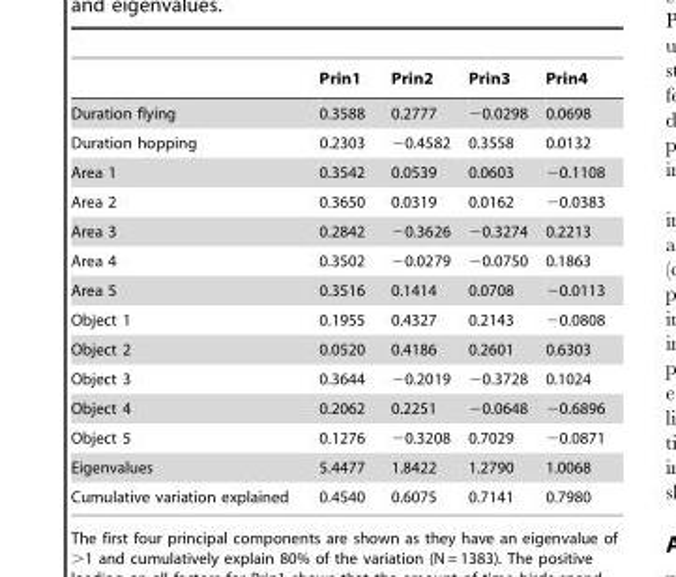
<table><thead><tr><td></td><td>Prin1</td><td>Prin2</td><td>Prin3</td><td>Prin4</td></tr></thead><tbody><tr><td>Duration flying</td><td>0.3588</td><td>0.2777</td><td>−0.0298</td><td>0.0698</td></tr><tr><td>Duration hopping</td><td>0.2303</td><td>−0.4582</td><td>0.3558</td><td>0.0132</td></tr><tr><td>Area 1</td><td>0.3542</td><td>0.0539</td><td>0.0603</td><td>−0.1108</td></tr><tr><td>Area 2</td><td>0.3650</td><td>0.0319</td><td>0.0162</td><td>−0.0383</td></tr><tr><td>Area 3</td><td>0.2842</td><td>−0.3626</td><td>−0.3274</td><td>0.2213</td></tr><tr><td>Area 4</td><td>0.3502</td><td>−0.0279</td><td>−0.0750</td><td>0.1863</td></tr><tr><td>Area 5</td><td>0.3516</td><td>0.1414</td><td>0.0708</td><td>−0.0113</td></tr><tr><td>Object 1</td><td>0.1955</td><td>0.4327</td><td>0.2143</td><td>−0.0808</td></tr><tr><td>Object 2</td><td>0.0520</td><td>0.4186</td><td>0.2601</td><td>0.6303</td></tr><tr><td>Object 3</td><td>0.3644</td><td>−0.2019</td><td>−0.3728</td><td>0.1024</td></tr><tr><td>Object 4</td><td>0.2062</td><td>0.2251</td><td>−0.0648</td><td>−0.6896</td></tr><tr><td>Object 5</td><td>0.1276</td><td>−0.3208</td><td>0.7029</td><td>−0.0871</td></tr><tr><td>Eigenvalues</td><td>5.4477</td><td>1.8422</td><td>1.2790</td><td>1.0068</td></tr><tr><td>Cumulative variation explained</td><td>0.4540</td><td>0.6075</td><td>0.7141</td><td>0.7980</td></tr></tbody></table>